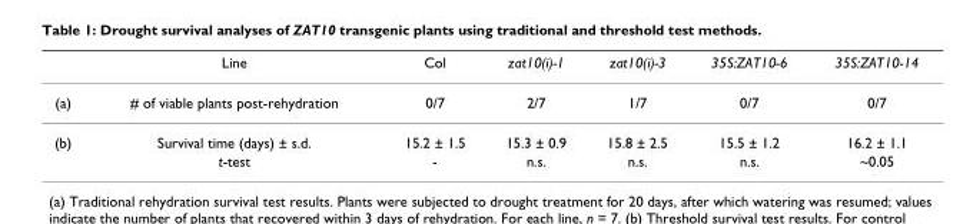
<table><thead><tr><td></td><td>Line</td><td>Col</td><td>zat10(i)-1</td><td>zat10(i)-3</td><td>35S:ZAT10-6</td><td>35S:ZAT10-14</td></tr></thead><tbody><tr><td>(a)</td><td># of viable plants post-rehydration</td><td>0/7</td><td>2/7</td><td>1/7</td><td>0/7</td><td>0/7</td></tr><tr><td rowspan="2">(b)</td><td>Survival time (days) ± s.d.</td><td>15.2 ± 1.5</td><td>15.3 ± 0.9</td><td>15.8 ± 2.5</td><td>15.5 ± 1.2</td><td>16.2 ± 1.1</td></tr><tr><td>t-test</td><td>-</td><td>n.s.</td><td>n.s.</td><td>n.s.</td><td>~0.05</td></tr></tbody></table>